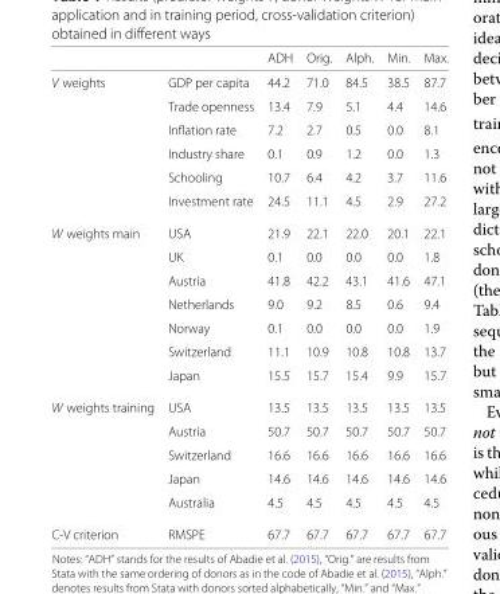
<table><thead><tr><td></td><td></td><td>ADH</td><td>Orig.</td><td>Alph.</td><td>Min.</td><td>Max.</td></tr></thead><tbody><tr><td rowspan="6">V weights</td><td>GDP per capita</td><td>44.2</td><td>71.0</td><td>84.5</td><td>38.5</td><td>87.7</td></tr><tr><td>Trade openness</td><td>13.4</td><td>7.9</td><td>5.1</td><td>4.4</td><td>14.6</td></tr><tr><td>Inflation rate</td><td>7.2</td><td>2.7</td><td>0.5</td><td>0.0</td><td>8.1</td></tr><tr><td>Industry share</td><td>0.1</td><td>0.9</td><td>1.2</td><td>0.0</td><td>1.3</td></tr><tr><td>Schooling</td><td>10.7</td><td>6.4</td><td>4.2</td><td>3.7</td><td>11.6</td></tr><tr><td>Investment rate</td><td>24.5</td><td>11.1</td><td>4.5</td><td>2.9</td><td>27.2</td></tr><tr><td rowspan="7">W weights main</td><td>USA</td><td>21.9</td><td>22.1</td><td>22.0</td><td>20.1</td><td>22.1</td></tr><tr><td>UK</td><td>0.1</td><td>0.0</td><td>0.0</td><td>0.0</td><td>1.8</td></tr><tr><td>Austria</td><td>41.8</td><td>42.2</td><td>43.1</td><td>41.6</td><td>47.1</td></tr><tr><td>Netherlands</td><td>9.0</td><td>9.2</td><td>8.5</td><td>0.6</td><td>9.4</td></tr><tr><td>Norway</td><td>0.1</td><td>0.0</td><td>0.0</td><td>0.0</td><td>1.9</td></tr><tr><td>Switzerland</td><td>11.1</td><td>10.9</td><td>10.8</td><td>10.8</td><td>13.7</td></tr><tr><td>Japan</td><td>15.5</td><td>15.7</td><td>15.4</td><td>9.9</td><td>15.7</td></tr><tr><td rowspan="5">W weights training</td><td>USA</td><td>13.5</td><td>13.5</td><td>13.5</td><td>13.5</td><td>13.5</td></tr><tr><td>Austria</td><td>50.7</td><td>50.7</td><td>50.7</td><td>50.7</td><td>50.7</td></tr><tr><td>Switzerland</td><td>16.6</td><td>16.6</td><td>16.6</td><td>16.6</td><td>16.6</td></tr><tr><td>Japan</td><td>14.6</td><td>14.6</td><td>14.6</td><td>14.6</td><td>14.6</td></tr><tr><td>Australia</td><td>4.5</td><td>4.5</td><td>4.5</td><td>4.5</td><td>4.5</td></tr><tr><td>C-V criterion</td><td>RMSPE</td><td>67.7</td><td>67.7</td><td>67.7</td><td>67.7</td><td>67.7</td></tr></tbody></table>